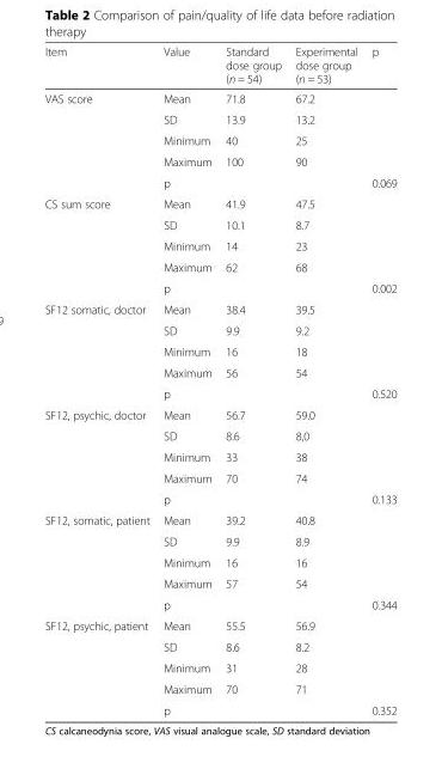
<table><thead><tr><td>Item</td><td>Value</td><td>Standard dose group (n = 54)</td><td>Experimental dose group (n = 53)</td><td>p</td></tr></thead><tbody><tr><td rowspan="5">VAS score</td><td>Mean</td><td>71.8</td><td>67.2</td><td></td></tr><tr><td>SD</td><td>13.9</td><td>13.2</td><td></td></tr><tr><td>Minimum</td><td>40</td><td>25</td><td></td></tr><tr><td>Maximum</td><td>100</td><td>90</td><td></td></tr><tr><td>p</td><td></td><td></td><td>0.069</td></tr><tr><td rowspan="5">CS sum score</td><td>Mean</td><td>41.9</td><td>47.5</td><td></td></tr><tr><td>SD</td><td>10.1</td><td>8.7</td><td></td></tr><tr><td>Minimum</td><td>14</td><td>23</td><td></td></tr><tr><td>Maximum</td><td>62</td><td>68</td><td></td></tr><tr><td>p</td><td></td><td></td><td>0.002</td></tr><tr><td rowspan="5">SF12 somatic, doctor</td><td>Mean</td><td>38.4</td><td>39.5</td><td></td></tr><tr><td>SD</td><td>9.9</td><td>9.2</td><td></td></tr><tr><td>Minimum</td><td>16</td><td>18</td><td></td></tr><tr><td>Maximum</td><td>56</td><td>54</td><td></td></tr><tr><td>p</td><td></td><td></td><td>0.520</td></tr><tr><td rowspan="5">SF12, psychic, doctor</td><td>Mean</td><td>56.7</td><td>59.0</td><td></td></tr><tr><td>SD</td><td>8.6</td><td>8,0</td><td></td></tr><tr><td>Minimum</td><td>33</td><td>38</td><td></td></tr><tr><td>Maximum</td><td>70</td><td>74</td><td></td></tr><tr><td>p</td><td></td><td></td><td>0.133</td></tr><tr><td rowspan="5">SF12, somatic, patient</td><td>Mean</td><td>39.2</td><td>40.8</td><td></td></tr><tr><td>SD</td><td>9.9</td><td>8.9</td><td></td></tr><tr><td>Minimum</td><td>16</td><td>16</td><td></td></tr><tr><td>Maximum</td><td>57</td><td>54</td><td></td></tr><tr><td>p</td><td></td><td></td><td>0.344</td></tr><tr><td rowspan="5">SF12, psychic, patient</td><td>Mean</td><td>55.5</td><td>56.9</td><td></td></tr><tr><td>SD</td><td>8.6</td><td>8.2</td><td></td></tr><tr><td>Minimum</td><td>31</td><td>28</td><td></td></tr><tr><td>Maximum</td><td>70</td><td>71</td><td></td></tr><tr><td>p</td><td></td><td></td><td>0.352</td></tr></tbody></table>